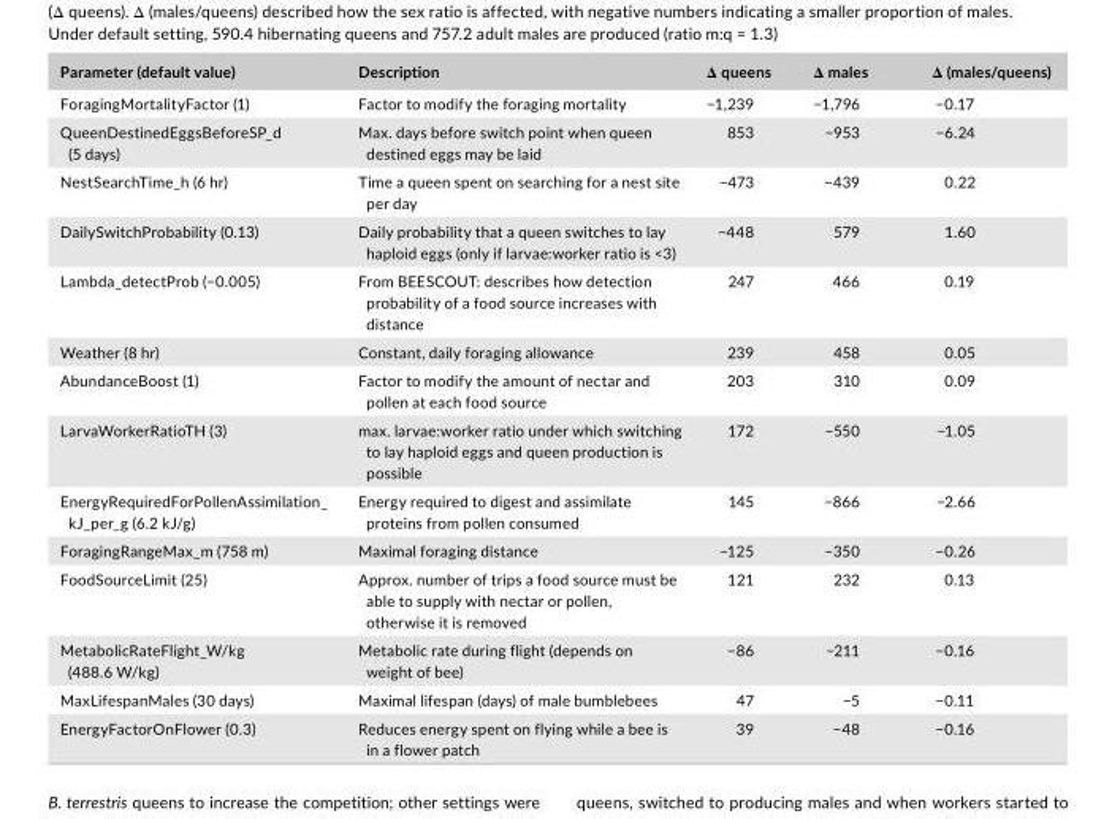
<table><thead><tr><td>Parameter (default value)</td><td>Description</td><td>Δ queens</td><td>Δ males</td><td>Δ (males/queens)</td></tr></thead><tbody><tr><td>ForagingMortalityFactor (1)</td><td>Factor to modify the foraging mortality</td><td>−1,239</td><td>−1,796</td><td>−0.17</td></tr><tr><td>QueenDestinedEggsBeforeSP_d (5 days)</td><td>Max. days before switch point when queen destined eggs may be laid</td><td>853</td><td>−953</td><td>−6.24</td></tr><tr><td>NestSearchTime_h (6 hr)</td><td>Time a queen spent on searching for a nest site per day</td><td>−473</td><td>−439</td><td>0.22</td></tr><tr><td>DailySwitchProbability (0.13)</td><td>Daily probability that a queen switches to lay haploid eggs (only if larvae:worker ratio is &lt;3)</td><td>−448</td><td>579</td><td>1.60</td></tr><tr><td>Lambda_detectProb (−0.005)</td><td>From BEESCOUT: describes how detection probability of a food source increases with distance</td><td>247</td><td>466</td><td>0.19</td></tr><tr><td>Weather (8 hr)</td><td>Constant, daily foraging allowance</td><td>239</td><td>458</td><td>0.05</td></tr><tr><td>AbundanceBoost (1)</td><td>Factor to modify the amount of nectar and pollen at each food source</td><td>203</td><td>310</td><td>0.09</td></tr><tr><td>LarvaWorkerRatioTH (3)</td><td>max. larvae:worker ratio under which switching to lay haploid eggs and queen production is possible</td><td>172</td><td>−550</td><td>−1.05</td></tr><tr><td>EnergyRequiredForPollenAssimilation_ kJ_per_g (6.2 kJ/g)</td><td>Energy required to digest and assimilate proteins from pollen consumed</td><td>145</td><td>−866</td><td>−2.66</td></tr><tr><td>ForagingRangeMax_m (758 m)</td><td>Maximal foraging distance</td><td>−125</td><td>−350</td><td>−0.26</td></tr><tr><td>FoodSourceLimit (25)</td><td>Approx. number of trips a food source must be able to supply with nectar or pollen, otherwise it is removed</td><td>121</td><td>232</td><td>0.13</td></tr><tr><td>MetabolicRateFlight_W/kg (488.6 W/kg)</td><td>Metabolic rate during flight (depends on weight of bee)</td><td>−86</td><td>−211</td><td>−0.16</td></tr><tr><td>MaxLifespanMales (30 days)</td><td>Maximal lifespan (days) of male bumblebees</td><td>47</td><td>−5</td><td>−0.11</td></tr><tr><td>EnergyFactorOnFlower (0.3)</td><td>Reduces energy spent on flying while a bee is in a flower patch</td><td>39</td><td>−48</td><td>−0.16</td></tr></tbody></table>